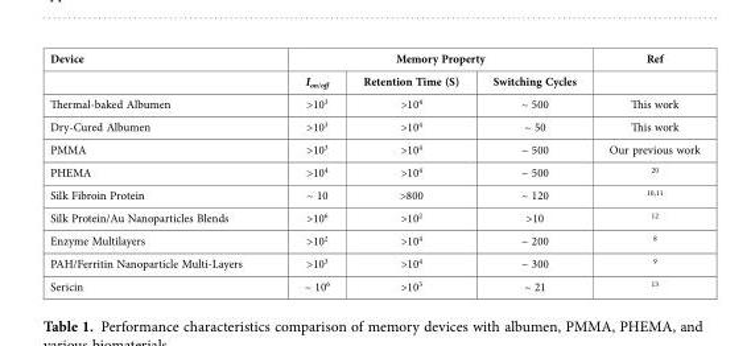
<table><tbody><tr><td rowspan="2">Device</td><td colspan="3">Memory Property</td><td>Ref</td></tr><tr><td>I<sub>on/off</sub></td><td>Retention Time (S)</td><td>Switching Cycles</td><td></td></tr><tr><td>Thermal-baked Albumen</td><td>&gt;10<sup>3</sup></td><td>&gt;10<sup>4</sup></td><td>~ 500</td><td>This work</td></tr><tr><td>Dry-Cured Albumen</td><td>&gt;10<sup>3</sup></td><td>&gt;10<sup>4</sup></td><td>~ 50</td><td>This work</td></tr><tr><td>PMMA</td><td>&gt;10<sup>3</sup></td><td>&gt;10<sup>4</sup></td><td>~ 500</td><td>Our previous work</td></tr><tr><td>PHEMA</td><td>&gt;10<sup>4</sup></td><td>&gt;10<sup>4</sup></td><td>~ 500</td><td>20</td></tr><tr><td>Silk Fibroin Protein</td><td>~ 10</td><td>&gt;800</td><td>~ 120</td><td>10,11</td></tr><tr><td>Silk Protein/Au Nanoparticles Blends</td><td>&gt;10<sup>6</sup></td><td>&gt;10<sup>2</sup></td><td>&gt;10</td><td>12</td></tr><tr><td>Enzyme Multilayers</td><td>&gt;10<sup>2</sup></td><td>&gt;10<sup>4</sup></td><td>~ 200</td><td>8</td></tr><tr><td>PAH/Ferritin Nanoparticle Multi-Layers</td><td>&gt;10<sup>3</sup></td><td>&gt;10<sup>4</sup></td><td>~ 300</td><td>9</td></tr><tr><td>Sericin</td><td>~ 10<sup>6</sup></td><td>&gt;10<sup>3</sup></td><td>~ 21</td><td>13</td></tr></tbody></table>